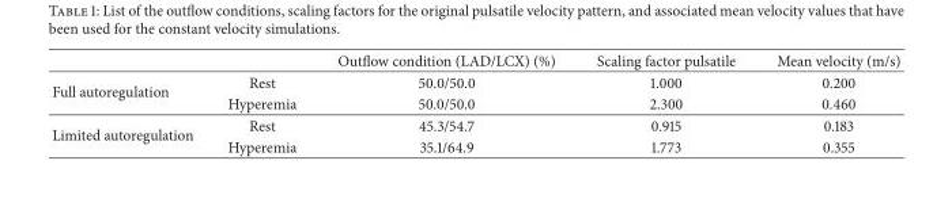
<table><thead><tr><td></td><td></td><td>Outflow condition (LAD/LCX) (%)</td><td>Scaling factor pulsatile</td><td>Mean velocity (m/s)</td></tr></thead><tbody><tr><td rowspan="2">Full autoregulation</td><td>Rest</td><td>50.0/50.0</td><td>1.000</td><td>0.200</td></tr><tr><td>Hyperemia</td><td>50.0/50.0</td><td>2.300</td><td>0.460</td></tr><tr><td rowspan="2">Limited autoregulation</td><td>Rest</td><td>45.3/54.7</td><td>0.915</td><td>0.183</td></tr><tr><td>Hyperemia</td><td>35.1/64.9</td><td>1.773</td><td>0.355</td></tr></tbody></table>